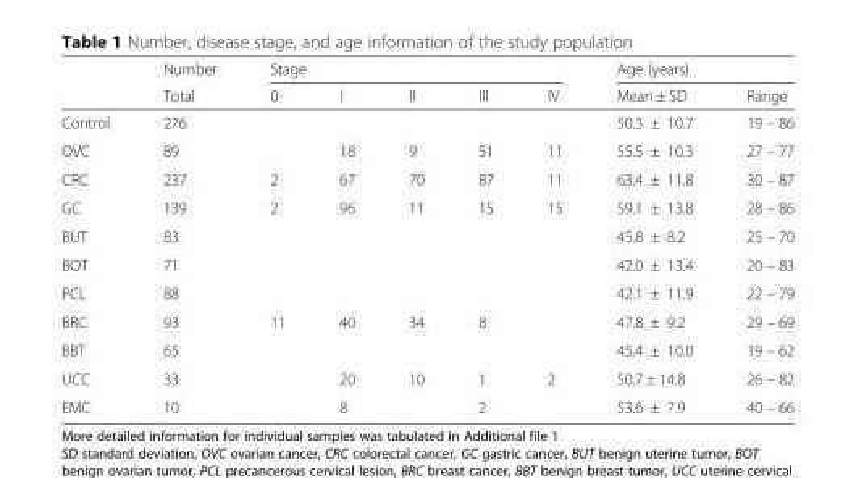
<table><thead><tr><td rowspan="2"></td><td rowspan="2">Number Total</td><td colspan="5">Stage</td><td colspan="2">Age (years)</td></tr><tr><td>0</td><td>I</td><td>II</td><td>III</td><td>IV</td><td>Mean ± SD</td><td>Range</td></tr></thead><tbody><tr><td>Control</td><td>276</td><td></td><td></td><td></td><td></td><td></td><td>50.3 ± 10.7</td><td>19 – 86</td></tr><tr><td>OVC</td><td>89</td><td></td><td>18</td><td>9</td><td>51</td><td>11</td><td>55.5 ± 10.3</td><td>27 – 77</td></tr><tr><td>CRC</td><td>237</td><td>2</td><td>67</td><td>70</td><td>87</td><td>11</td><td>63.4 ± 11.8</td><td>30 – 87</td></tr><tr><td>GC</td><td>139</td><td>2</td><td>96</td><td>11</td><td>15</td><td>15</td><td>59.1 ± 13.8</td><td>28 – 86</td></tr><tr><td>BUT</td><td>83</td><td></td><td></td><td></td><td></td><td></td><td>45.8 ± 8.2</td><td>25 – 70</td></tr><tr><td>BOT</td><td>71</td><td></td><td></td><td></td><td></td><td></td><td>42.0 ± 13.4</td><td>20 – 83</td></tr><tr><td>PCL</td><td>88</td><td></td><td></td><td></td><td></td><td></td><td>42.1 ± 11.9</td><td>22 – 79</td></tr><tr><td>BRC</td><td>93</td><td>11</td><td>40</td><td>34</td><td>8</td><td></td><td>47.8 ± 9.2</td><td>29 – 69</td></tr><tr><td>BBT</td><td>65</td><td></td><td></td><td></td><td></td><td></td><td>45.4 ± 10.0</td><td>19 – 62</td></tr><tr><td>UCC</td><td>33</td><td></td><td>20</td><td>10</td><td>1</td><td>2</td><td>50.7 ± 14.8</td><td>26 – 82</td></tr><tr><td>EMC</td><td>10</td><td></td><td>8</td><td></td><td>2</td><td></td><td>53.6 ± 7.9</td><td>40 – 66</td></tr></tbody></table>